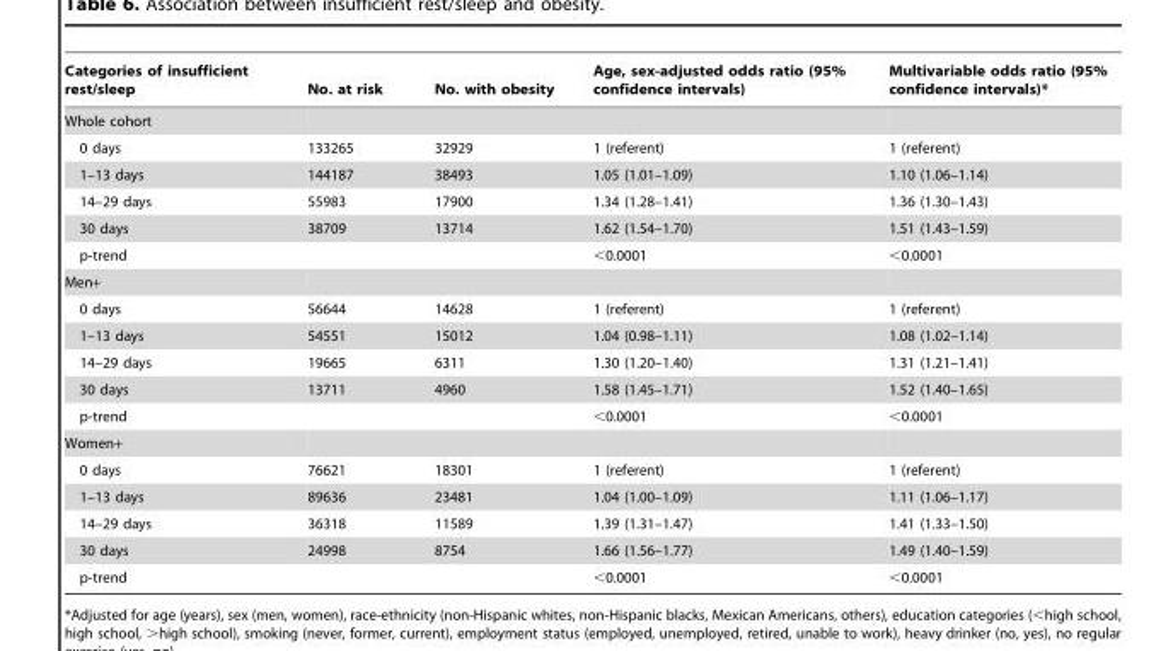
<table><thead><tr><td>Categories of insufficient rest/sleep</td><td>No. at risk</td><td>No. with obesity</td><td>Age, sex-adjusted odds ratio (95% confidence intervals)</td><td>Multivariable odds ratio (95% confidence intervals)*</td></tr></thead><tbody><tr><td colspan="5">Whole cohort</td></tr><tr><td>0 days</td><td>133265</td><td>32929</td><td>1 (referent)</td><td>1 (referent)</td></tr><tr><td>1–13 days</td><td>144187</td><td>38493</td><td>1.05 (1.01–1.09)</td><td>1.10 (1.06–1.14)</td></tr><tr><td>14–29 days</td><td>55983</td><td>17900</td><td>1.34 (1.28–1.41)</td><td>1.36 (1.30–1.43)</td></tr><tr><td>30 days</td><td>38709</td><td>13714</td><td>1.62 (1.54–1.70)</td><td>1.51 (1.43–1.59)</td></tr><tr><td>p-trend</td><td></td><td></td><td>&lt;0.0001</td><td>&lt;0.0001</td></tr><tr><td colspan="5">Men+</td></tr><tr><td>0 days</td><td>56644</td><td>14628</td><td>1 (referent)</td><td>1 (referent)</td></tr><tr><td>1–13 days</td><td>54551</td><td>15012</td><td>1.04 (0.98–1.11)</td><td>1.08 (1.02–1.14)</td></tr><tr><td>14–29 days</td><td>19665</td><td>6311</td><td>1.30 (1.20–1.40)</td><td>1.31 (1.21–1.41)</td></tr><tr><td>30 days</td><td>13711</td><td>4960</td><td>1.58 (1.45–1.71)</td><td>1.52 (1.40–1.65)</td></tr><tr><td>p-trend</td><td></td><td></td><td>&lt;0.0001</td><td>&lt;0.0001</td></tr><tr><td colspan="5">Women+</td></tr><tr><td>0 days</td><td>76621</td><td>18301</td><td>1 (referent)</td><td>1 (referent)</td></tr><tr><td>1–13 days</td><td>89636</td><td>23481</td><td>1.04 (1.00–1.09)</td><td>1.11 (1.06–1.17)</td></tr><tr><td>14–29 days</td><td>36318</td><td>11589</td><td>1.39 (1.31–1.47)</td><td>1.41 (1.33–1.50)</td></tr><tr><td>30 days</td><td>24998</td><td>8754</td><td>1.66 (1.56–1.77)</td><td>1.49 (1.40–1.59)</td></tr><tr><td>p-trend</td><td></td><td></td><td>&lt;0.0001</td><td>&lt;0.0001</td></tr></tbody></table>